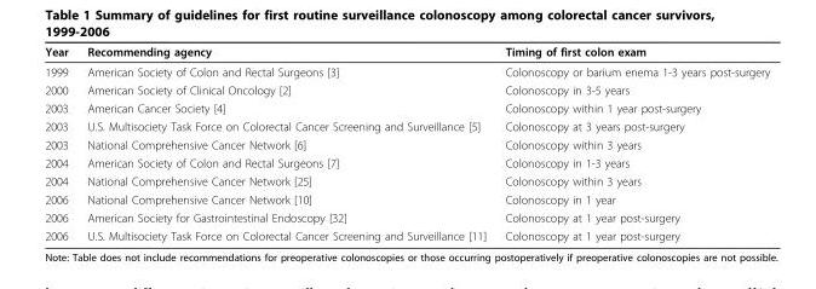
<table><thead><tr><td>Year</td><td>Recommending agency</td><td>Timing of first colon exam</td></tr></thead><tbody><tr><td>1999</td><td>American Society of Colon and Rectal Surgeons [3]</td><td>Colonoscopy or barium enema 1-3 years post-surgery</td></tr><tr><td>2000</td><td>American Society of Clinical Oncology [2]</td><td>Colonoscopy in 3-5 years</td></tr><tr><td>2003</td><td>American Cancer Society [4]</td><td>Colonoscopy within 1 year post-surgery</td></tr><tr><td>2003</td><td>U.S. Multisociety Task Force on Colorectal Cancer Screening and Surveillance [5]</td><td>Colonoscopy at 3 years post-surgery</td></tr><tr><td>2003</td><td>National Comprehensive Cancer Network [6]</td><td>Colonoscopy within 3 years</td></tr><tr><td>2004</td><td>American Society of Colon and Rectal Surgeons [7]</td><td>Colonoscopy in 1-3 years</td></tr><tr><td>2004</td><td>National Comprehensive Cancer Network [25]</td><td>Colonoscopy within 3 years</td></tr><tr><td>2006</td><td>National Comprehensive Cancer Network [10]</td><td>Colonoscopy in 1 year</td></tr><tr><td>2006</td><td>American Society for Gastrointestinal Endoscopy [32]</td><td>Colonoscopy at 1 year post-surgery</td></tr><tr><td>2006</td><td>U.S. Multisociety Task Force on Colorectal Cancer Screening and Surveillance [11]</td><td>Colonoscopy at 1 year post-surgery</td></tr></tbody></table>